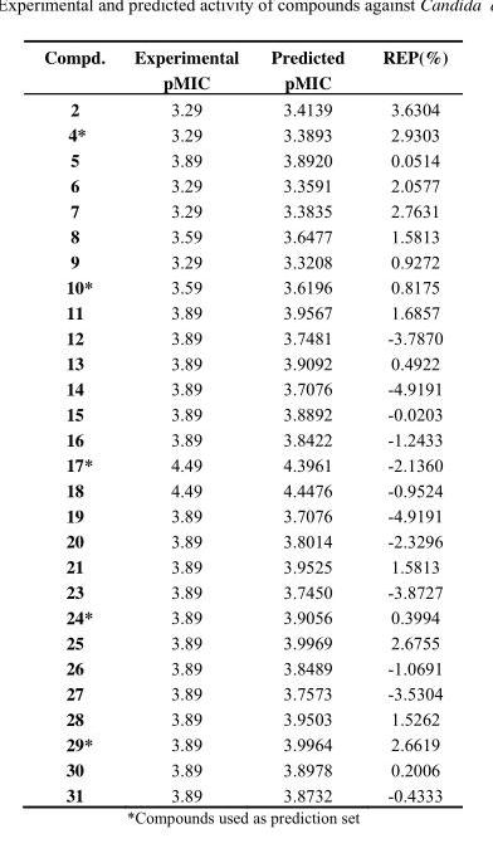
<table><thead><tr><td>Compd.</td><td>Experimental pMIC</td><td>Predicted pMIC</td><td>REP(%)</td></tr></thead><tbody><tr><td>2</td><td>3.29</td><td>3.4139</td><td>3.6304</td></tr><tr><td>4*</td><td>3.29</td><td>3.3893</td><td>2.9303</td></tr><tr><td>5</td><td>3.89</td><td>3.8920</td><td>0.0514</td></tr><tr><td>6</td><td>3.29</td><td>3.3591</td><td>2.0577</td></tr><tr><td>7</td><td>3.29</td><td>3.3835</td><td>2.7631</td></tr><tr><td>8</td><td>3.59</td><td>3.6477</td><td>1.5813</td></tr><tr><td>9</td><td>3.29</td><td>3.3208</td><td>0.9272</td></tr><tr><td>10*</td><td>3.59</td><td>3.6196</td><td>0.8175</td></tr><tr><td>11</td><td>3.89</td><td>3.9567</td><td>1.6857</td></tr><tr><td>12</td><td>3.89</td><td>3.7481</td><td>-3.7870</td></tr><tr><td>13</td><td>3.89</td><td>3.9092</td><td>0.4922</td></tr><tr><td>14</td><td>3.89</td><td>3.7076</td><td>-4.9191</td></tr><tr><td>15</td><td>3.89</td><td>3.8892</td><td>-0.0203</td></tr><tr><td>16</td><td>3.89</td><td>3.8422</td><td>-1.2433</td></tr><tr><td>17*</td><td>4.49</td><td>4.3961</td><td>-2.1360</td></tr><tr><td>18</td><td>4.49</td><td>4.4476</td><td>-0.9524</td></tr><tr><td>19</td><td>3.89</td><td>3.7076</td><td>-4.9191</td></tr><tr><td>20</td><td>3.89</td><td>3.8014</td><td>-2.3296</td></tr><tr><td>21</td><td>3.89</td><td>3.9525</td><td>1.5813</td></tr><tr><td>23</td><td>3.89</td><td>3.7450</td><td>-3.8727</td></tr><tr><td>24*</td><td>3.89</td><td>3.9056</td><td>0.3994</td></tr><tr><td>25</td><td>3.89</td><td>3.9969</td><td>2.6755</td></tr><tr><td>26</td><td>3.89</td><td>3.8489</td><td>-1.0691</td></tr><tr><td>27</td><td>3.89</td><td>3.7573</td><td>-3.5304</td></tr><tr><td>28</td><td>3.89</td><td>3.9503</td><td>1.5262</td></tr><tr><td>29*</td><td>3.89</td><td>3.9964</td><td>2.6619</td></tr><tr><td>30</td><td>3.89</td><td>3.8978</td><td>0.2006</td></tr><tr><td>31</td><td>3.89</td><td>3.8732</td><td>-0.4333</td></tr></tbody></table>